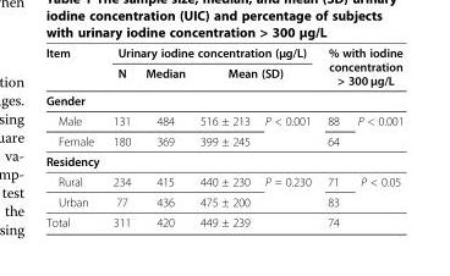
<table><thead><tr><td rowspan="3">Item Gender</td><td colspan="4">Urinary iodine concentration (μg/L)</td><td rowspan="2" colspan="2">% with iodine concentration &gt; 300 μg/L</td></tr><tr><td rowspan="2">N</td><td rowspan="2">Median</td><td colspan="2">Mean (SD)</td></tr><tr><td></td><td></td><td></td><td></td></tr></thead><tbody><tr><td>Male</td><td>131</td><td>484</td><td>516 ± 213</td><td>P &lt; 0.001</td><td>88</td><td>P &lt; 0.001</td></tr><tr><td>Female</td><td>180</td><td>369</td><td>399 ± 245</td><td></td><td>64</td><td></td></tr><tr><td colspan="7">Residency</td></tr><tr><td>Rural</td><td>234</td><td>415</td><td>440 ± 230</td><td>P = 0.230</td><td>71</td><td>P &lt; 0.05</td></tr><tr><td>Urban</td><td>77</td><td>436</td><td>475 ± 200</td><td></td><td>83</td><td></td></tr><tr><td>Total</td><td>311</td><td>420</td><td>449 ± 239</td><td></td><td>74</td><td></td></tr></tbody></table>